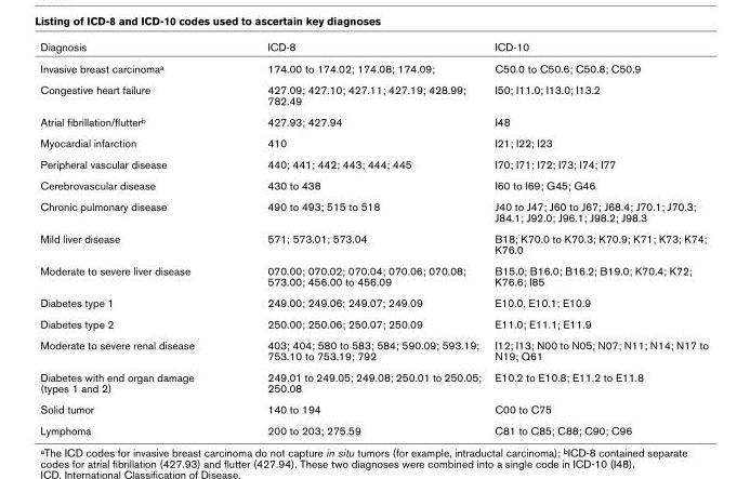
<table><thead><tr><td>Diagnosis</td><td>ICD-8</td><td>ICD-10</td></tr></thead><tbody><tr><td>Invasive breast carcinoma<sup>a</sup></td><td>174.00 to 174.02; 174.08; 174.09;</td><td>C50.0 to C50.6; C50.8; C50.9</td></tr><tr><td>Congestive heart failure</td><td>427.09; 427.10; 427.11; 427.19; 428.99; 782.49</td><td>I50; I11.0; I13.0; I13.2</td></tr><tr><td>Atrial fibrillation/flutter<sup>b</sup></td><td>427.93; 427.94</td><td>I48</td></tr><tr><td>Myocardial infarction</td><td>410</td><td>I21; I22; I23</td></tr><tr><td>Peripheral vascular disease</td><td>440; 441; 442; 443; 444; 445</td><td>I70; I71; I72; I73; I74; I77</td></tr><tr><td>Cerebrovascular disease</td><td>430 to 438</td><td>I60 to I69; G45; G46</td></tr><tr><td>Chronic pulmonary disease</td><td>490 to 493; 515 to 518</td><td>J40 to J47; J60 to J67; J68.4; J70.1; J70.3; J84.1; J92.0; J96.1; J98.2; J98.3</td></tr><tr><td>Mild liver disease</td><td>571; 573.01; 573.04</td><td>B18; K70.0 to K70.3; K70.9; K71; K73; K74; K76.0</td></tr><tr><td>Moderate to severe liver disease</td><td>070.00; 070.02; 070.04; 070.06; 070.08; 573.00; 456.00 to 456.09</td><td>B15.0; B16.0; B16.2; B19.0; K70.4; K72; K76.6; I85</td></tr><tr><td>Diabetes type 1</td><td>249.00; 249.06; 249.07; 249.09</td><td>E10.0, E10.1; E10.9</td></tr><tr><td>Diabetes type 2</td><td>250.00; 250.06; 250.07; 250.09</td><td>E11.0; E11.1; E11.9</td></tr><tr><td>Moderate to severe renal disease</td><td>403; 404; 580 to 583; 584; 590.09; 593.19; 753.10 to 753.19; 792</td><td>I12; I13; N00 to N05; N07; N11; N14; N17 to N19; Q61</td></tr><tr><td>Diabetes with end organ damage (types 1 and 2)</td><td>249.01 to 249.05; 249.08; 250.01 to 250.05; 250.08</td><td>E10.2 to E10.8; E11.2 to E11.8</td></tr><tr><td>Solid tumor</td><td>140 to 194</td><td>C00 to C75</td></tr><tr><td>Lymphoma</td><td>200 to 203; 275.59</td><td>C81 to C85; C88; C90; C96</td></tr></tbody></table>